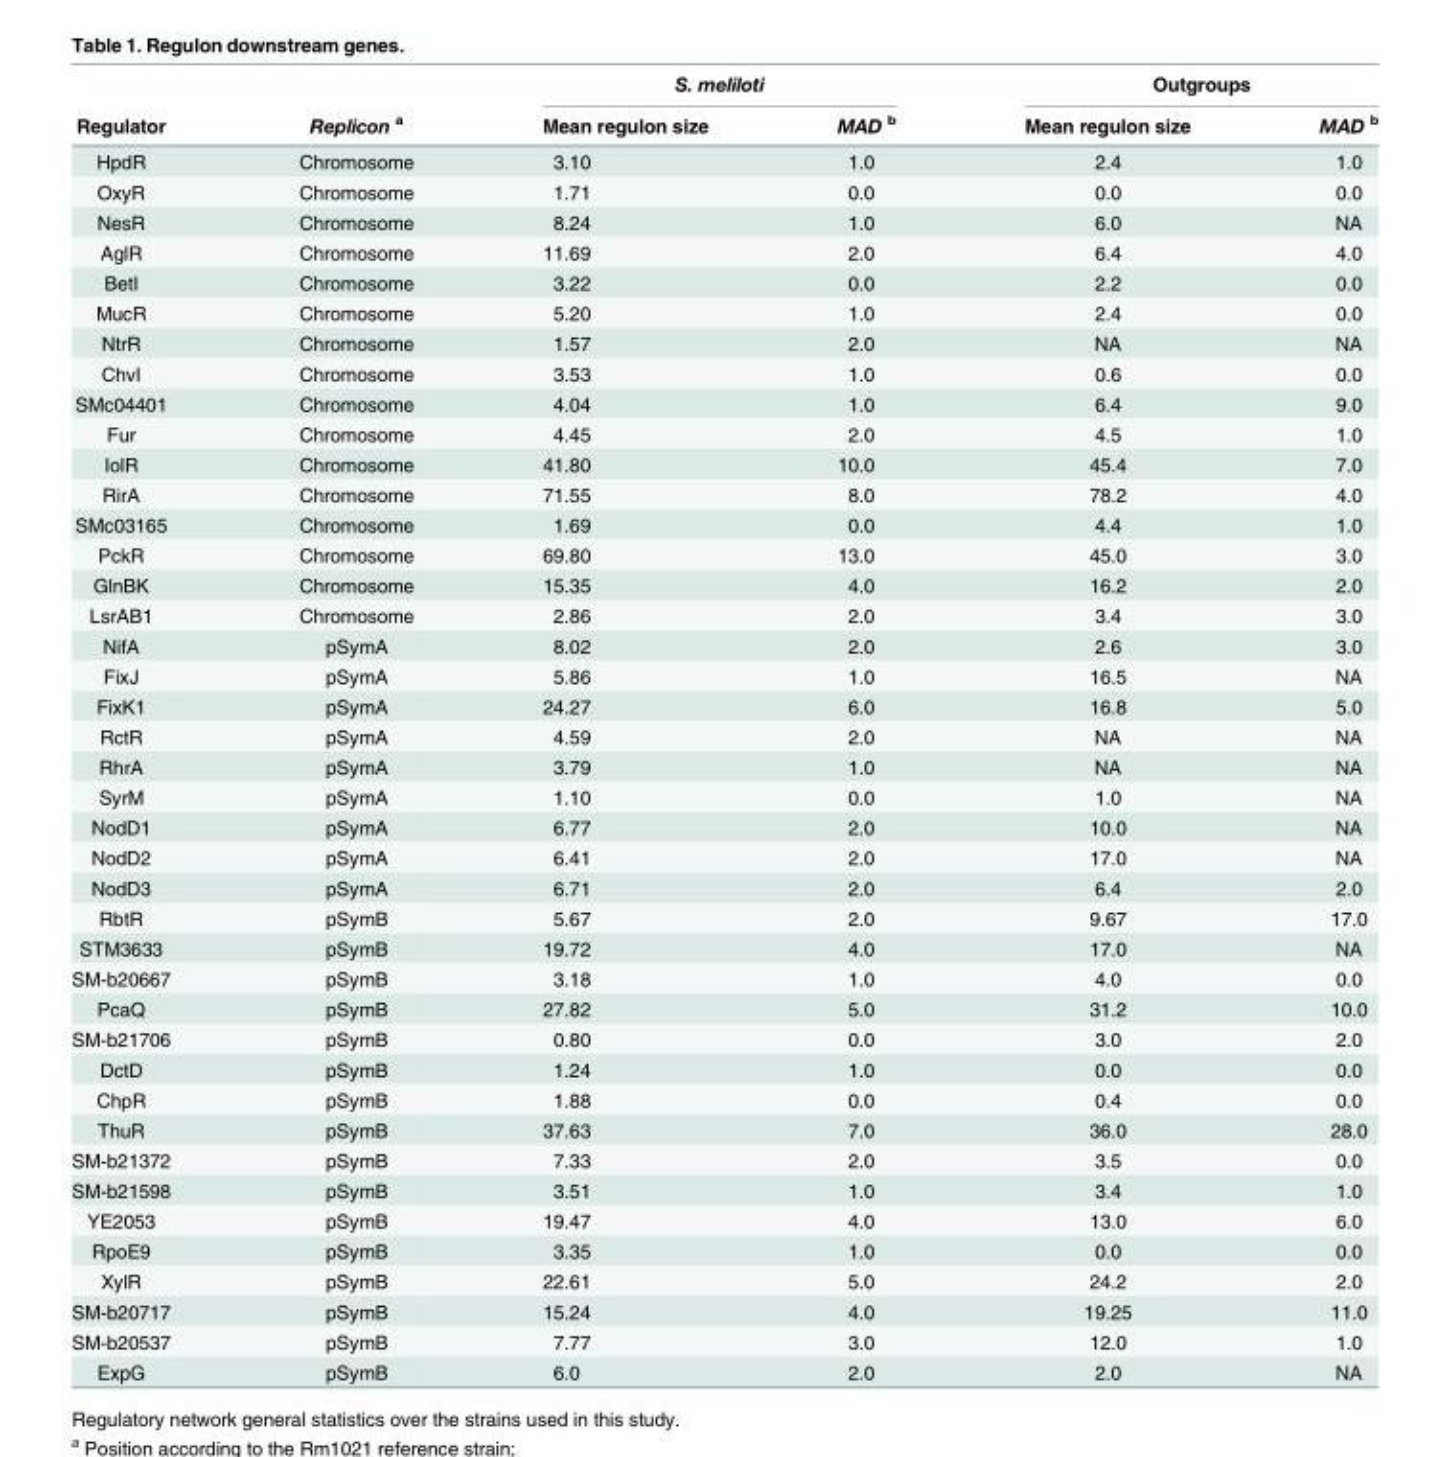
<table><thead><tr><td rowspan="2">Regulator</td><td rowspan="2">Replicon <sup>a</sup></td><td colspan="2">S. meliloti</td><td colspan="2">Outgroups</td></tr><tr><td>Mean regulon size</td><td>MAD <sup>b</sup></td><td>Mean regulon size</td><td>MAD <sup>b</sup></td></tr></thead><tbody><tr><td>HpdR</td><td>Chromosome</td><td>3.10</td><td>1.0</td><td>2.4</td><td>1.0</td></tr><tr><td>OxyR</td><td>Chromosome</td><td>1.71</td><td>0.0</td><td>0.0</td><td>0.0</td></tr><tr><td>NesR</td><td>Chromosome</td><td>8.24</td><td>1.0</td><td>6.0</td><td>NA</td></tr><tr><td>AglR</td><td>Chromosome</td><td>11.69</td><td>2.0</td><td>6.4</td><td>4.0</td></tr><tr><td>BetI</td><td>Chromosome</td><td>3.22</td><td>0.0</td><td>2.2</td><td>0.0</td></tr><tr><td>MucR</td><td>Chromosome</td><td>5.20</td><td>1.0</td><td>2.4</td><td>0.0</td></tr><tr><td>NtrR</td><td>Chromosome</td><td>1.57</td><td>2.0</td><td>NA</td><td>NA</td></tr><tr><td>ChvI</td><td>Chromosome</td><td>3.53</td><td>1.0</td><td>0.6</td><td>0.0</td></tr><tr><td>SMc04401</td><td>Chromosome</td><td>4.04</td><td>1.0</td><td>6.4</td><td>9.0</td></tr><tr><td>Fur</td><td>Chromosome</td><td>4.45</td><td>2.0</td><td>4.5</td><td>1.0</td></tr><tr><td>IolR</td><td>Chromosome</td><td>41.80</td><td>10.0</td><td>45.4</td><td>7.0</td></tr><tr><td>RirA</td><td>Chromosome</td><td>71.55</td><td>8.0</td><td>78.2</td><td>4.0</td></tr><tr><td>SMc03165</td><td>Chromosome</td><td>1.69</td><td>0.0</td><td>4.4</td><td>1.0</td></tr><tr><td>PckR</td><td>Chromosome</td><td>69.80</td><td>13.0</td><td>45.0</td><td>3.0</td></tr><tr><td>GlnBK</td><td>Chromosome</td><td>15.35</td><td>4.0</td><td>16.2</td><td>2.0</td></tr><tr><td>LsrAB1</td><td>Chromosome</td><td>2.86</td><td>2.0</td><td>3.4</td><td>3.0</td></tr><tr><td>NifA</td><td>pSymA</td><td>8.02</td><td>2.0</td><td>2.6</td><td>3.0</td></tr><tr><td>FixJ</td><td>pSymA</td><td>5.86</td><td>1.0</td><td>16.5</td><td>NA</td></tr><tr><td>FixK1</td><td>pSymA</td><td>24.27</td><td>6.0</td><td>16.8</td><td>5.0</td></tr><tr><td>RctR</td><td>pSymA</td><td>4.59</td><td>2.0</td><td>NA</td><td>NA</td></tr><tr><td>RhrA</td><td>pSymA</td><td>3.79</td><td>1.0</td><td>NA</td><td>NA</td></tr><tr><td>SyrM</td><td>pSymA</td><td>1.10</td><td>0.0</td><td>1.0</td><td>NA</td></tr><tr><td>NodD1</td><td>pSymA</td><td>6.77</td><td>2.0</td><td>10.0</td><td>NA</td></tr><tr><td>NodD2</td><td>pSymA</td><td>6.41</td><td>2.0</td><td>17.0</td><td>NA</td></tr><tr><td>NodD3</td><td>pSymA</td><td>6.71</td><td>2.0</td><td>6.4</td><td>2.0</td></tr><tr><td>RbtR</td><td>pSymB</td><td>5.67</td><td>2.0</td><td>9.67</td><td>17.0</td></tr><tr><td>STM3633</td><td>pSymB</td><td>19.72</td><td>4.0</td><td>17.0</td><td>NA</td></tr><tr><td>SM-b20667</td><td>pSymB</td><td>3.18</td><td>1.0</td><td>4.0</td><td>0.0</td></tr><tr><td>PcaQ</td><td>pSymB</td><td>27.82</td><td>5.0</td><td>31.2</td><td>10.0</td></tr><tr><td>SM-b21706</td><td>pSymB</td><td>0.80</td><td>0.0</td><td>3.0</td><td>2.0</td></tr><tr><td>DctD</td><td>pSymB</td><td>1.24</td><td>1.0</td><td>0.0</td><td>0.0</td></tr><tr><td>ChpR</td><td>pSymB</td><td>1.88</td><td>0.0</td><td>0.4</td><td>0.0</td></tr><tr><td>ThuR</td><td>pSymB</td><td>37.63</td><td>7.0</td><td>36.0</td><td>28.0</td></tr><tr><td>SM-b21372</td><td>pSymB</td><td>7.33</td><td>2.0</td><td>3.5</td><td>0.0</td></tr><tr><td>SM-b21598</td><td>pSymB</td><td>3.51</td><td>1.0</td><td>3.4</td><td>1.0</td></tr><tr><td>YE2053</td><td>pSymB</td><td>19.47</td><td>4.0</td><td>13.0</td><td>6.0</td></tr><tr><td>RpoE9</td><td>pSymB</td><td>3.35</td><td>1.0</td><td>0.0</td><td>0.0</td></tr><tr><td>XylR</td><td>pSymB</td><td>22.61</td><td>5.0</td><td>24.2</td><td>2.0</td></tr><tr><td>SM-b20717</td><td>pSymB</td><td>15.24</td><td>4.0</td><td>19.25</td><td>11.0</td></tr><tr><td>SM-b20537</td><td>pSymB</td><td>7.77</td><td>3.0</td><td>12.0</td><td>1.0</td></tr><tr><td>ExpG</td><td>pSymB</td><td>6.0</td><td>2.0</td><td>2.0</td><td>NA</td></tr></tbody></table>